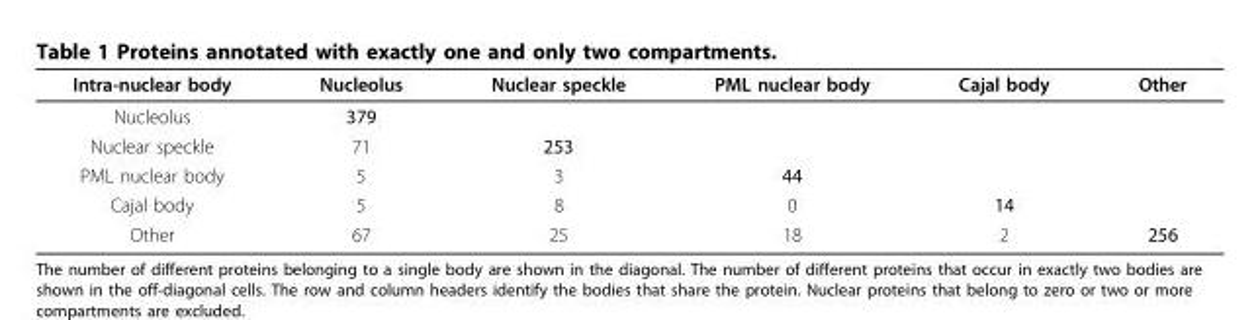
<table><thead><tr><td>Intra-nuclear body</td><td>Nucleolus</td><td>Nuclear speckle</td><td>PML nuclear body</td><td>Cajal body</td><td>Other</td></tr></thead><tbody><tr><td>Nucleolus</td><td>379</td><td></td><td></td><td></td><td></td></tr><tr><td>Nuclear speckle</td><td>71</td><td>253</td><td></td><td></td><td></td></tr><tr><td>PML nuclear body</td><td>5</td><td>3</td><td>44</td><td></td><td></td></tr><tr><td>Cajal body</td><td>5</td><td>8</td><td>0</td><td>14</td><td></td></tr><tr><td>Other</td><td>67</td><td>25</td><td>18</td><td>2</td><td>256</td></tr></tbody></table>